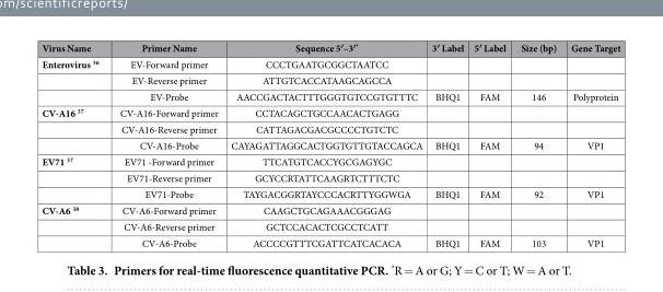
<table><thead><tr><td>Virus Name</td><td>Primer Name</td><td>Sequence 5′–3′*</td><td>3′ Label</td><td>5′ Label</td><td>Size (bp)</td><td>Gene Target</td></tr></thead><tbody><tr><td rowspan="3">Enterovirus <sup>36</sup></td><td>EV-Forward primer</td><td>CCCTGAATGCGGCTAATCC</td><td></td><td></td><td></td><td></td></tr><tr><td>EV-Reverse primer</td><td>ATTGTCACCATAAGCAGCCA</td><td></td><td></td><td></td><td></td></tr><tr><td>EV-Probe</td><td>AACCGACTACTTTGGGTGTCCGTGTTTC</td><td>BHQ1</td><td>FAM</td><td>146</td><td>Polyprotein</td></tr><tr><td rowspan="3">CV-A16 <sup>37</sup></td><td>CV-A16-Forward primer</td><td>CCTACAGCTGCCAACACTGAGG</td><td></td><td></td><td></td><td></td></tr><tr><td>CV-A16-Reverse primer</td><td>CATTAGACGACGCCCCTGTCTC</td><td></td><td></td><td></td><td></td></tr><tr><td>CV-A16-Probe</td><td>CAYAGATTAGGCACTGGTGTTGTACCAGCA</td><td>BHQ1</td><td>FAM</td><td>94</td><td>VP1</td></tr><tr><td rowspan="3">EV71 <sup>37</sup></td><td>EV71 -Forward primer</td><td>TTCATGTCACCYGCGAGYGC</td><td></td><td></td><td></td><td></td></tr><tr><td>EV71-Reverse primer</td><td>GCYCCRTATTCAAGRTCTTTCTC</td><td></td><td></td><td></td><td></td></tr><tr><td>EV71-Probe</td><td>TAYGACGGRTAYCCCACRTTYGGWGA</td><td>BHQ1</td><td>FAM</td><td>92</td><td>VP1</td></tr><tr><td rowspan="3">CV-A6 <sup>38</sup></td><td>CV-A6-Forward primer</td><td>CAAGCTGCAGAAACGGGAG</td><td></td><td></td><td></td><td></td></tr><tr><td>CV-A6-Reverse primer</td><td>GCTCCACACTCGCCTCATT</td><td></td><td></td><td></td><td></td></tr><tr><td>CV-A6-Probe</td><td>ACCCCGTTTCGATTCATCACACA</td><td>BHQ1</td><td>FAM</td><td>103</td><td>VP1</td></tr></tbody></table>